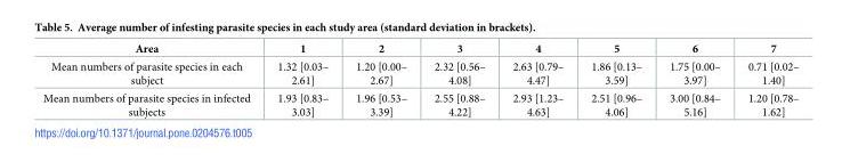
<table><thead><tr><td>Area</td><td>1</td><td>2</td><td>3</td><td>4</td><td>5</td><td>6</td><td>7</td></tr></thead><tbody><tr><td>Mean numbers of parasite species in each subject</td><td>1.32 [0.03– 2.61]</td><td>1.20 [0.00– 2.67]</td><td>2.32 [0.56– 4.08]</td><td>2.63 [0.79– 4.47]</td><td>1.86 [0.13– 3.59]</td><td>1.75 [0.00– 3.97]</td><td>0.71 [0.02– 1.40]</td></tr><tr><td>Mean numbers of parasite species in infected subjects</td><td>1.93 [0.83– 3.03]</td><td>1.96 [0.53– 3.39]</td><td>2.55 [0.88– 4.22]</td><td>2.93 [1.23– 4.63]</td><td>2.51 [0.96– 4.06]</td><td>3.00 [0.84– 5.16]</td><td>1.20 [0.78– 1.62]</td></tr></tbody></table>